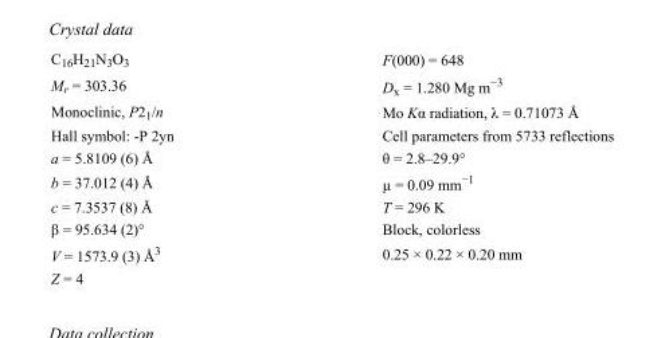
<table><tbody><tr><td>C<sub>16</sub>H<sub>21</sub>N<sub>3</sub>O<sub>3</sub></td><td>F(000) = 648</td></tr><tr><td>M<sub>r</sub> = 303.36</td><td>D<sub>x</sub> = 1.280 Mg m<sup>−3</sup></td></tr><tr><td>Monoclinic, P2<sub>1</sub>/n</td><td>Mo Kα radiation, λ = 0.71073 Å</td></tr><tr><td>Hall symbol: -P 2yn</td><td>Cell parameters from 5733 reflections</td></tr><tr><td>a = 5.8109 (6) Å</td><td>θ = 2.8–29.9°</td></tr><tr><td>b = 37.012 (4) Å</td><td>µ = 0.09 mm<sup>−1</sup></td></tr><tr><td>c = 7.3537 (8) Å</td><td>T = 296 K</td></tr><tr><td>β = 95.634 (2)°</td><td>Block, colorless</td></tr><tr><td>V = 1573.9 (3) Å<sup>3</sup></td><td>0.25 × 0.22 × 0.20 mm</td></tr><tr><td>Z = 4</td><td></td></tr></tbody></table>